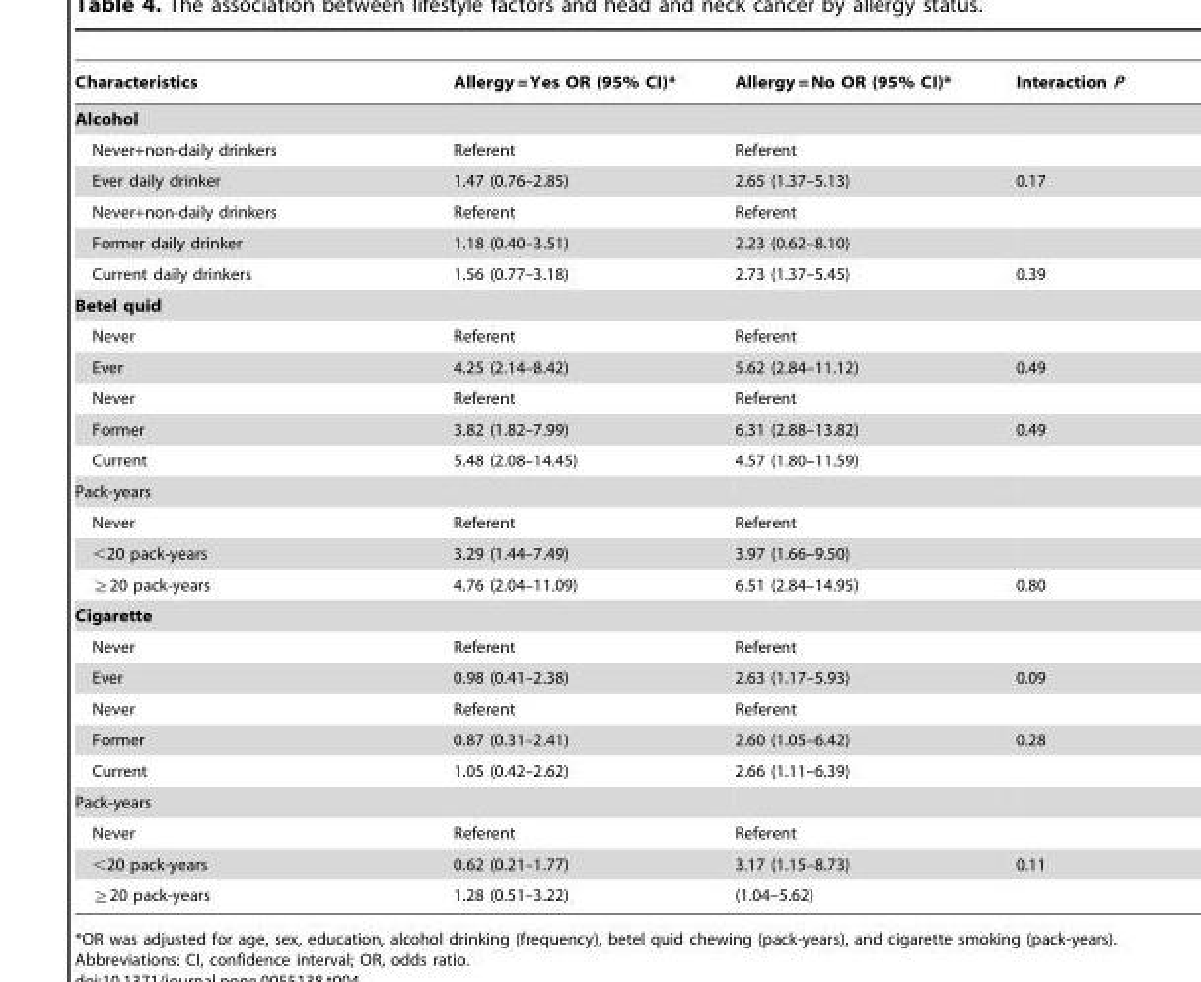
<table><thead><tr><td>Characteristics</td><td>Allergy = Yes OR (95% CI)*</td><td>Allergy = No OR (95% CI)*</td><td>Interaction P</td></tr></thead><tbody><tr><td colspan="4">Alcohol</td></tr><tr><td>Never+non-daily drinkers</td><td>Referent</td><td>Referent</td><td></td></tr><tr><td>Ever daily drinker</td><td>1.47 (0.76–2.85)</td><td>2.65 (1.37–5.13)</td><td>0.17</td></tr><tr><td>Never+non-daily drinkers</td><td>Referent</td><td>Referent</td><td></td></tr><tr><td>Former daily drinker</td><td>1.18 (0.40–3.51)</td><td>2.23 (0.62–8.10)</td><td></td></tr><tr><td>Current daily drinkers</td><td>1.56 (0.77–3.18)</td><td>2.73 (1.37–5.45)</td><td>0.39</td></tr><tr><td colspan="4">Betel quid</td></tr><tr><td>Never</td><td>Referent</td><td>Referent</td><td></td></tr><tr><td>Ever</td><td>4.25 (2.14–8.42)</td><td>5.62 (2.84–11.12)</td><td>0.49</td></tr><tr><td>Never</td><td>Referent</td><td>Referent</td><td></td></tr><tr><td>Former</td><td>3.82 (1.82–7.99)</td><td>6.31 (2.88–13.82)</td><td>0.49</td></tr><tr><td>Current</td><td>5.48 (2.08–14.45)</td><td>4.57 (1.80–11.59)</td><td></td></tr><tr><td colspan="4">Pack-years</td></tr><tr><td>Never</td><td>Referent</td><td>Referent</td><td></td></tr><tr><td>&lt;20 pack-years</td><td>3.29 (1.44–7.49)</td><td>3.97 (1.66–9.50)</td><td></td></tr><tr><td>≧20 pack-years</td><td>4.76 (2.04–11.09)</td><td>6.51 (2.84–14.95)</td><td>0.80</td></tr><tr><td colspan="4">Cigarette</td></tr><tr><td>Never</td><td>Referent</td><td>Referent</td><td></td></tr><tr><td>Ever</td><td>0.98 (0.41–2.38)</td><td>2.63 (1.17–5.93)</td><td>0.09</td></tr><tr><td>Never</td><td>Referent</td><td>Referent</td><td></td></tr><tr><td>Former</td><td>0.87 (0.31–2.41)</td><td>2.60 (1.05–6.42)</td><td>0.28</td></tr><tr><td>Current</td><td>1.05 (0.42–2.62)</td><td>2.66 (1.11–6.39)</td><td></td></tr><tr><td colspan="4">Pack-years</td></tr><tr><td>Never</td><td>Referent</td><td>Referent</td><td></td></tr><tr><td>&lt;20 pack-years</td><td>0.62 (0.21–1.77)</td><td>3.17 (1.15–8.73)</td><td>0.11</td></tr><tr><td>≧20 pack-years</td><td>1.28 (0.51–3.22)</td><td>(1.04–5.62)</td><td></td></tr></tbody></table>